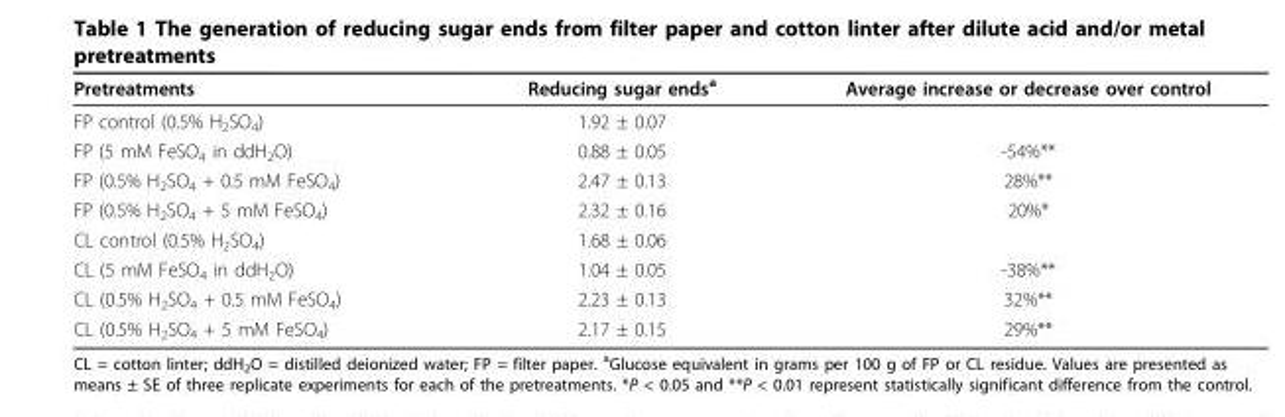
<table><thead><tr><td>Pretreatments</td><td>Reducing sugar ends<sup>a</sup></td><td>Average increase or decrease over control</td></tr></thead><tbody><tr><td>FP control (0.5% H<sub>2</sub>SO<sub>4</sub>)</td><td>1.92 ± 0.07</td><td></td></tr><tr><td>FP (5 mM FeSO<sub>4</sub> in ddH<sub>2</sub>O)</td><td>0.88 ± 0.05</td><td>-54%**</td></tr><tr><td>FP (0.5% H<sub>2</sub>SO<sub>4</sub> + 0.5 mM FeSO<sub>4</sub>)</td><td>2.47 ± 0.13</td><td>28%**</td></tr><tr><td>FP (0.5% H<sub>2</sub>SO<sub>4</sub> + 5 mM FeSO<sub>4</sub>)</td><td>2.32 ± 0.16</td><td>20%*</td></tr><tr><td>CL control (0.5% H<sub>2</sub>SO<sub>4</sub>)</td><td>1.68 ± 0.06</td><td></td></tr><tr><td>CL (5 mM FeSO<sub>4</sub> in ddH<sub>2</sub>O)</td><td>1.04 ± 0.05</td><td>-38%**</td></tr><tr><td>CL (0.5% H<sub>2</sub>SO<sub>4</sub> + 0.5 mM FeSO<sub>4</sub>)</td><td>2.23 ± 0.13</td><td>32%**</td></tr><tr><td>CL (0.5% H<sub>2</sub>SO<sub>4</sub> + 5 mM FeSO<sub>4</sub>)</td><td>2.17 ± 0.15</td><td>29%**</td></tr></tbody></table>